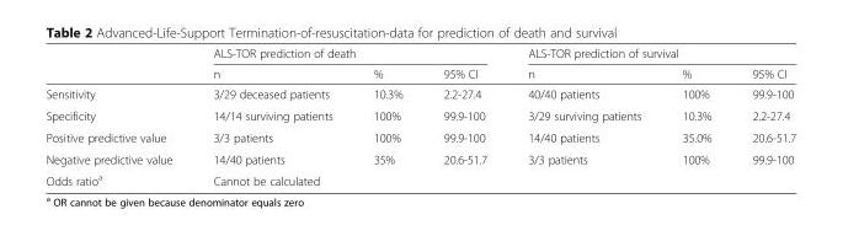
<table><thead><tr><td rowspan="2"></td><td colspan="3">ALS-TOR prediction of death</td><td colspan="3">ALS-TOR prediction of survival</td></tr><tr><td>n</td><td>%</td><td>95% CI</td><td>n</td><td>%</td><td>95% CI</td></tr></thead><tbody><tr><td>Sensitivity</td><td>3/29 deceased patients</td><td>10.3%</td><td>2.2-27.4</td><td>40/40 patients</td><td>100%</td><td>99.9-100</td></tr><tr><td>Specificity</td><td>14/14 surviving patients</td><td>100%</td><td>99.9-100</td><td>3/29 surviving patients</td><td>10.3%</td><td>2.2-27.4</td></tr><tr><td>Positive predictive value</td><td>3/3 patients</td><td>100%</td><td>99.9-100</td><td>14/40 patients</td><td>35.0%</td><td>20.6-51.7</td></tr><tr><td>Negative predictive value</td><td>14/40 patients</td><td>35%</td><td>20.6-51.7</td><td>3/3 patients</td><td>100%</td><td>99.9-100</td></tr><tr><td>Odds ratio<sup>a</sup></td><td colspan="6">Cannot be calculated</td></tr></tbody></table>